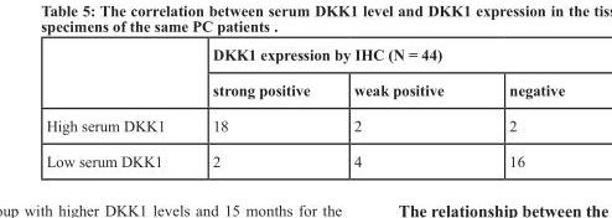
<table><thead><tr><td rowspan="2"></td><td colspan="3">DKK1 expression by IHC (N = 44)</td></tr><tr><td>strong positive</td><td>weak positive</td><td>negative</td></tr></thead><tbody><tr><td>High serum DKK1</td><td>18</td><td>2</td><td>2</td></tr><tr><td>Low serum DKK1</td><td>2</td><td>4</td><td>16</td></tr></tbody></table>